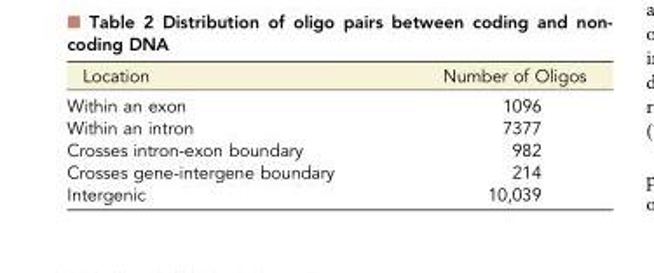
<table><thead><tr><td>Location</td><td>Number of Oligos</td></tr></thead><tbody><tr><td>Within an exon</td><td>1096</td></tr><tr><td>Within an intron</td><td>7377</td></tr><tr><td>Crosses intron-exon boundary</td><td>982</td></tr><tr><td>Crosses gene-intergene boundary</td><td>214</td></tr><tr><td>Intergenic</td><td>10,039</td></tr></tbody></table>